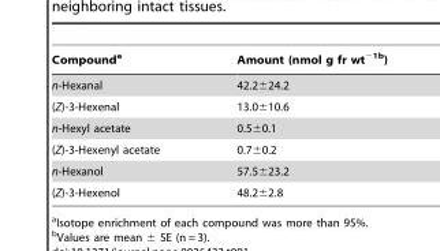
<table><thead><tr><td>Compound<sup>a</sup></td><td>Amount (nmol g fr wt<sup>−1b</sup>)</td></tr></thead><tbody><tr><td>n-Hexanal</td><td>42.2±24.2</td></tr><tr><td>(Z)-3-Hexenal</td><td>13.0±10.6</td></tr><tr><td>n-Hexyl acetate</td><td>0.5±0.1</td></tr><tr><td>(Z)-3-Hexenyl acetate</td><td>0.7±0.2</td></tr><tr><td>n-Hexanol</td><td>57.5±23.2</td></tr><tr><td>(Z)-3-Hexenol</td><td>48.2±2.8</td></tr></tbody></table>